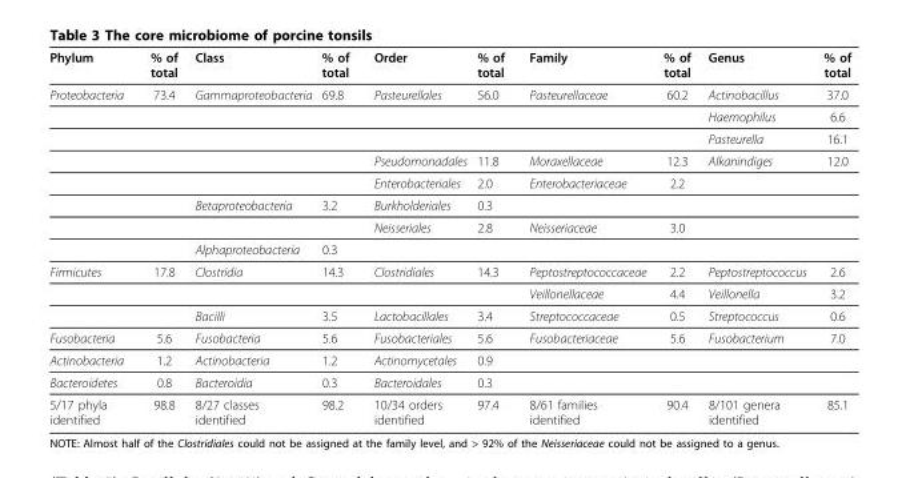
<table><thead><tr><td>Phylum</td><td>% of total</td><td>Class</td><td>% of total</td><td>Order</td><td>% of total</td><td>Family</td><td>% of total</td><td>Genus</td><td>% of total</td></tr></thead><tbody><tr><td rowspan="8">Proteobacteria</td><td>73.4</td><td>Gammaproteobacteria</td><td>69.8</td><td>Pasteurellales</td><td>56.0</td><td>Pasteurellaceae</td><td>60.2</td><td>Actinobacillus</td><td>37.0</td></tr><tr><td></td><td></td><td></td><td></td><td></td><td></td><td></td><td>Haemophilus</td><td>6.6</td></tr><tr><td></td><td></td><td></td><td></td><td></td><td></td><td></td><td>Pasteurella</td><td>16.1</td></tr><tr><td></td><td></td><td></td><td>Pseudomonadales</td><td>11.8</td><td>Moraxellaceae</td><td>12.3</td><td>Alkanindiges</td><td>12.0</td></tr><tr><td></td><td></td><td></td><td>Enterobacteriales</td><td>2.0</td><td>Enterobacteriaceae</td><td>2.2</td><td></td><td></td></tr><tr><td></td><td>Betaproteobacteria</td><td>3.2</td><td>Burkholderiales</td><td>0.3</td><td></td><td></td><td></td><td></td></tr><tr><td></td><td></td><td></td><td>Neisseriales</td><td>2.8</td><td>Neisseriaceae</td><td>3.0</td><td></td><td></td></tr><tr><td></td><td>Alphaproteobacteria</td><td>0.3</td><td></td><td></td><td></td><td></td><td></td><td></td></tr><tr><td rowspan="3">Firmicutes</td><td>17.8</td><td>Clostridia</td><td>14.3</td><td>Clostridiales</td><td>14.3</td><td>Peptostreptococcaceae</td><td>2.2</td><td>Peptostreptococcus</td><td>2.6</td></tr><tr><td></td><td></td><td></td><td></td><td></td><td>Veillonellaceae</td><td>4.4</td><td>Veillonella</td><td>3.2</td></tr><tr><td></td><td>Bacilli</td><td>3.5</td><td>Lactobacillales</td><td>3.4</td><td>Streptococcaceae</td><td>0.5</td><td>Streptococcus</td><td>0.6</td></tr><tr><td>Fusobacteria</td><td>5.6</td><td>Fusobacteria</td><td>5.6</td><td>Fusobacteriales</td><td>5.6</td><td>Fusobacteriaceae</td><td>5.6</td><td>Fusobacterium</td><td>7.0</td></tr><tr><td>Actinobacteria</td><td>1.2</td><td>Actinobacteria</td><td>1.2</td><td>Actinomycetales</td><td>0.9</td><td></td><td></td><td></td><td></td></tr><tr><td>Bacteroidetes</td><td>0.8</td><td>Bacteroidia</td><td>0.3</td><td>Bacteroidales</td><td>0.3</td><td></td><td></td><td></td><td></td></tr><tr><td>5/17 phyla identified</td><td>98.8</td><td>8/27 classes identified</td><td>98.2</td><td>10/34 orders identified</td><td>97.4</td><td>8/61 families identified</td><td>90.4</td><td>8/101 genera identified</td><td>85.1</td></tr></tbody></table>